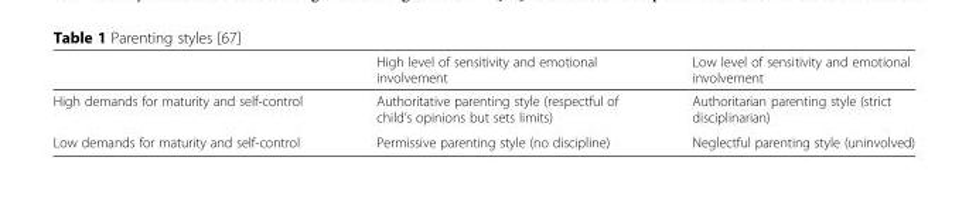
<table><thead><tr><td></td><td>High level of sensitivity and emotional involvement</td><td>Low level of sensitivity and emotional involvement</td></tr></thead><tbody><tr><td>High demands for maturity and self-control</td><td>Authoritative parenting style (respectful of child’s opinions but sets limits)</td><td>Authoritarian parenting style (strict disciplinarian)</td></tr><tr><td>Low demands for maturity and self-control</td><td>Permissive parenting style (no discipline)</td><td>Neglectful parenting style (uninvolved)</td></tr></tbody></table>